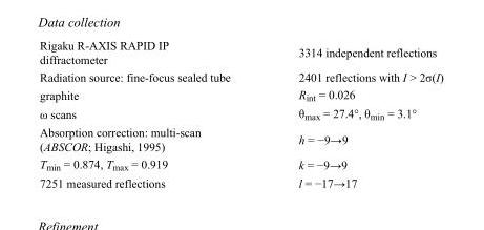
<table><tbody><tr><td>Rigaku R-AXIS RAPID IP diffractometer</td><td>3314 independent reflections</td></tr><tr><td>Radiation source: fine-focus sealed tube</td><td>2401 reflections with I &gt; 2σ(I)</td></tr><tr><td>graphite</td><td>R<sub>int</sub> = 0.026</td></tr><tr><td>ω scans</td><td>θ<sub>max</sub> = 27.4°, θ<sub>min</sub> = 3.1°</td></tr><tr><td>Absorption correction: multi-scan (ABSCOR; Higashi, 1995)</td><td>h = −9→9</td></tr><tr><td>T<sub>min</sub> = 0.874, T<sub>max</sub> = 0.919</td><td>k = −9→9</td></tr><tr><td>7251 measured reflections</td><td>l = −17→17</td></tr></tbody></table>